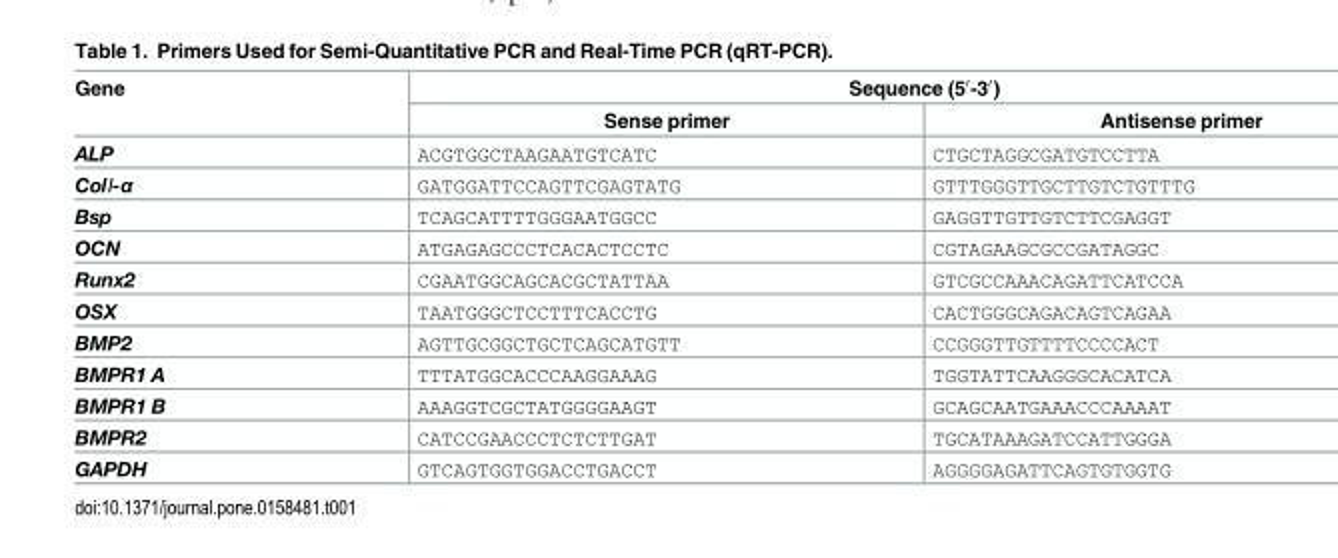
<table><thead><tr><td rowspan="2">Gene</td><td colspan="2">Sequence (5′-3′)</td></tr><tr><td>Sense primer</td><td>Antisense primer</td></tr></thead><tbody><tr><td>ALP</td><td>ACGTGGCTAAGAATGTCATC</td><td>CTGCTAGGCGATGTCCTTA</td></tr><tr><td>ColⅠ-α</td><td>GATGGATTCCAGTTCGAGTATG</td><td>GTTTGGGTTGCTTGTCTGTTTG</td></tr><tr><td>Bsp</td><td>TCAGCATTTTGGGAATGGCC</td><td>GAGGTTGTTGTCTTCGAGGT</td></tr><tr><td>OCN</td><td>ATGAGAGCCCTCACACTCCTC</td><td>CGTAGAAGCGCCGATAGGC</td></tr><tr><td>Runx2</td><td>CGAATGGCAGCACGCTATTAA</td><td>GTCGCCAAACAGATTCATCCA</td></tr><tr><td>OSX</td><td>TAATGGGCTCCTTTCACCTG</td><td>CACTGGGCAGACAGTCAGAA</td></tr><tr><td>BMP2</td><td>AGTTGCGGCTGCTCAGCATGTT</td><td>CCGGGTTGTTTTCCCCACT</td></tr><tr><td>BMPR1 A</td><td>TTTATGGCACCCAAGGAAAG</td><td>TGGTATTCAAGGGCACATCA</td></tr><tr><td>BMPR1 B</td><td>AAAGGTCGCTATGGGGAAGT</td><td>GCAGCAATGAAACCCAAAAT</td></tr><tr><td>BMPR2</td><td>CATCCGAACCCTCTCTTGAT</td><td>TGCATAAAGATCCATTGGGA</td></tr><tr><td>GAPDH</td><td>GTCAGTGGTGGACCTGACCT</td><td>AGGGGAGATTCAGTGTGGTG</td></tr></tbody></table>